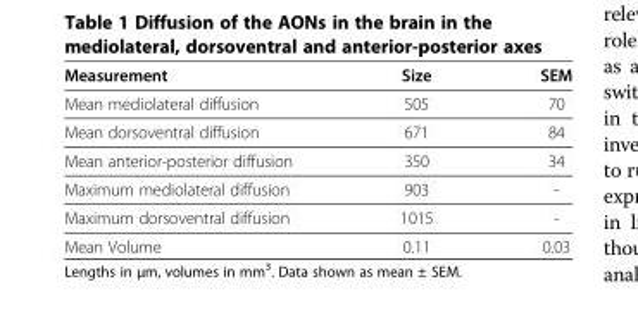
<table><thead><tr><td>Measurement</td><td>Size</td><td>SEM</td></tr></thead><tbody><tr><td>Mean mediolateral diffusion</td><td>505</td><td>70</td></tr><tr><td>Mean dorsoventral diffusion</td><td>671</td><td>84</td></tr><tr><td>Mean anterior-posterior diffusion</td><td>350</td><td>34</td></tr><tr><td>Maximum mediolateral diffusion</td><td>903</td><td>-</td></tr><tr><td>Maximum dorsoventral diffusion</td><td>1015</td><td>-</td></tr><tr><td>Mean Volume</td><td>0.11</td><td>0.03</td></tr></tbody></table>